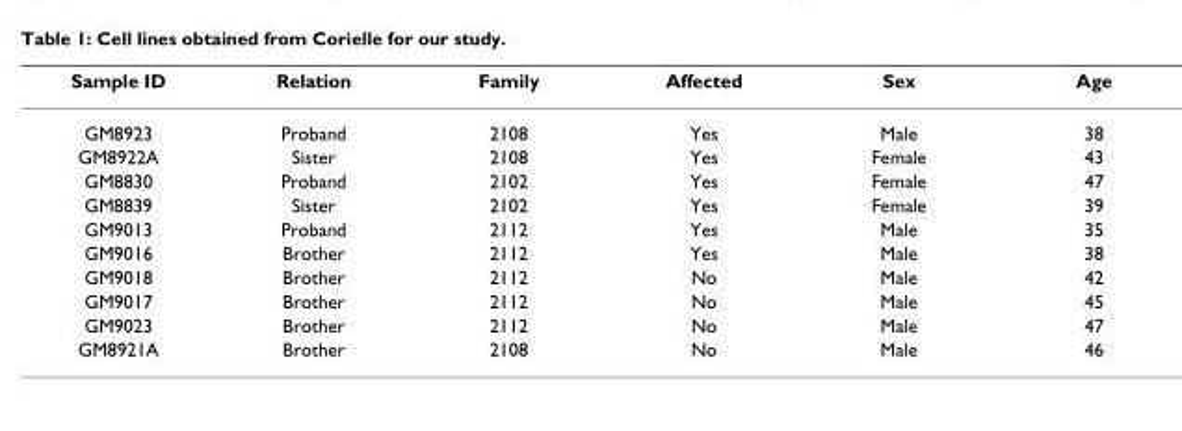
<table><thead><tr><td>Sample ID</td><td>Relation</td><td>Family</td><td>Affected</td><td>Sex</td><td>Age</td></tr></thead><tbody><tr><td>GM8923</td><td>Proband</td><td>2108</td><td>Yes</td><td>Male</td><td>38</td></tr><tr><td>GM8922A</td><td>Sister</td><td>2108</td><td>Yes</td><td>Female</td><td>43</td></tr><tr><td>GM8830</td><td>Proband</td><td>2102</td><td>Yes</td><td>Female</td><td>47</td></tr><tr><td>GM8839</td><td>Sister</td><td>2102</td><td>Yes</td><td>Female</td><td>39</td></tr><tr><td>GM9013</td><td>Proband</td><td>2112</td><td>Yes</td><td>Male</td><td>35</td></tr><tr><td>GM9016</td><td>Brother</td><td>2112</td><td>Yes</td><td>Male</td><td>38</td></tr><tr><td>GM9018</td><td>Brother</td><td>2112</td><td>No</td><td>Male</td><td>42</td></tr><tr><td>GM9017</td><td>Brother</td><td>2112</td><td>No</td><td>Male</td><td>45</td></tr><tr><td>GM9023</td><td>Brother</td><td>2112</td><td>No</td><td>Male</td><td>47</td></tr><tr><td>GM8921A</td><td>Brother</td><td>2108</td><td>No</td><td>Male</td><td>46</td></tr></tbody></table>